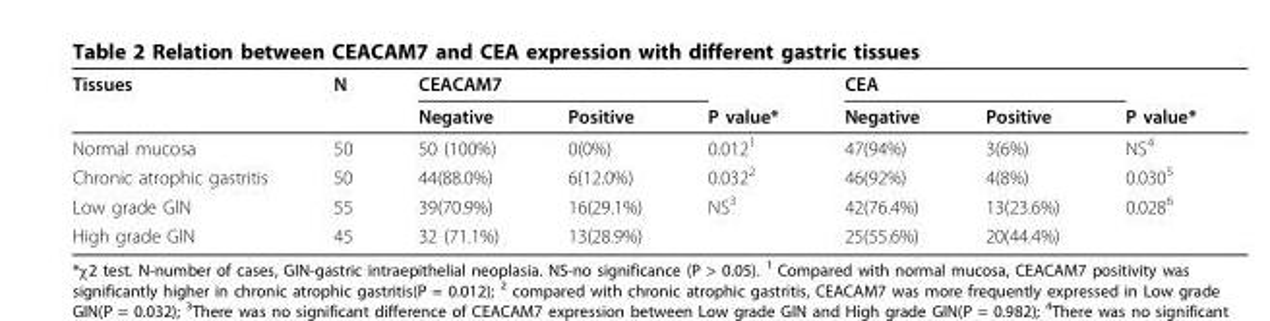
<table><thead><tr><td rowspan="2">Tissues</td><td rowspan="2">N</td><td rowspan="2">CEACAM7 Negative</td><td rowspan="2">Positive</td><td rowspan="2">P value*</td><td colspan="3">CEA</td></tr><tr><td>Negative</td><td>Positive</td><td>P value*</td></tr></thead><tbody><tr><td>Normal mucosa</td><td>50</td><td>50 (100%)</td><td>0(0%)</td><td>0.012<sup>1</sup></td><td>47(94%)</td><td>3(6%)</td><td>NS<sup>4</sup></td></tr><tr><td>Chronic atrophic gastritis</td><td>50</td><td>44(88.0%)</td><td>6(12.0%)</td><td>0.032<sup>2</sup></td><td>46(92%)</td><td>4(8%)</td><td>0.030<sup>5</sup></td></tr><tr><td>Low grade GIN</td><td>55</td><td>39(70.9%)</td><td>16(29.1%)</td><td>NS<sup>3</sup></td><td>42(76.4%)</td><td>13(23.6%)</td><td>0.028<sup>6</sup></td></tr><tr><td>High grade GIN</td><td>45</td><td>32 (71.1%)</td><td>13(28.9%)</td><td></td><td>25(55.6%)</td><td>20(44.4%)</td><td></td></tr></tbody></table>